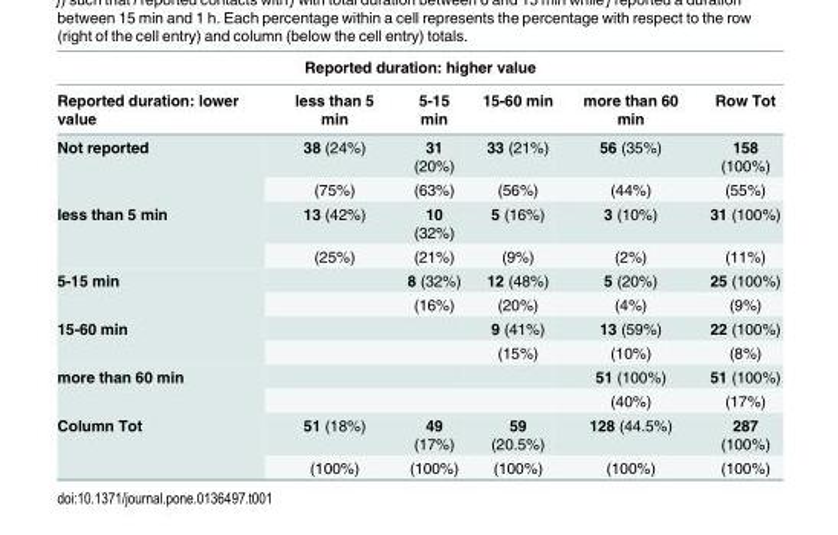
<table><thead><tr><td colspan="6">Reported duration: higher value</td></tr><tr><td>Reported duration: lower value</td><td>less than 5 min</td><td>5-15 min</td><td>15-60 min</td><td>more than 60 min</td><td>Row Tot</td></tr></thead><tbody><tr><td rowspan="2">Not reported</td><td>38 (24%)</td><td>31 (20%)</td><td>33 (21%)</td><td>56 (35%)</td><td>158 (100%)</td></tr><tr><td>(75%)</td><td>(63%)</td><td>(56%)</td><td>(44%)</td><td>(55%)</td></tr><tr><td rowspan="2">less than 5 min</td><td>13 (42%)</td><td>10 (32%)</td><td>5 (16%)</td><td>3 (10%)</td><td>31 (100%)</td></tr><tr><td>(25%)</td><td>(21%)</td><td>(9%)</td><td>(2%)</td><td>(11%)</td></tr><tr><td rowspan="2">5-15 min</td><td></td><td>8 (32%)</td><td>12 (48%)</td><td>5 (20%)</td><td>25 (100%)</td></tr><tr><td></td><td>(16%)</td><td>(20%)</td><td>(4%)</td><td>(9%)</td></tr><tr><td rowspan="2">15-60 min</td><td></td><td></td><td>9 (41%)</td><td>13 (59%)</td><td>22 (100%)</td></tr><tr><td></td><td></td><td>(15%)</td><td>(10%)</td><td>(8%)</td></tr><tr><td rowspan="2">more than 60 min</td><td></td><td></td><td></td><td>51 (100%)</td><td>51 (100%)</td></tr><tr><td></td><td></td><td></td><td>(40%)</td><td>(17%)</td></tr><tr><td rowspan="2">Column Tot</td><td>51 (18%)</td><td>49 (17%)</td><td>59 (20.5%)</td><td>128 (44.5%)</td><td>287 (100%)</td></tr><tr><td>(100%)</td><td>(100%)</td><td>(100%)</td><td>(100%)</td><td>(100%)</td></tr></tbody></table>